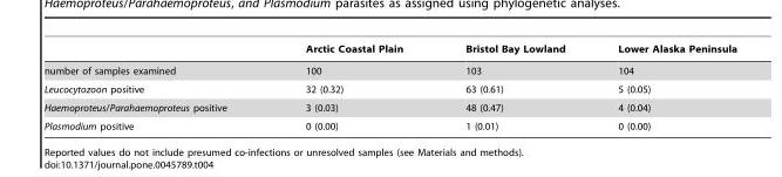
<table><thead><tr><td></td><td>Arctic Coastal Plain</td><td>Bristol Bay Lowland</td><td>Lower Alaska Peninsula</td></tr></thead><tbody><tr><td>number of samples examined</td><td>100</td><td>103</td><td>104</td></tr><tr><td>Leucocytozoon positive</td><td>32 (0.32)</td><td>63 (0.61)</td><td>5 (0.05)</td></tr><tr><td>Haemoproteus/Parahaemoproteus positive</td><td>3 (0.03)</td><td>48 (0.47)</td><td>4 (0.04)</td></tr><tr><td>Plasmodium positive</td><td>0 (0.00)</td><td>1 (0.01)</td><td>0 (0.00)</td></tr></tbody></table>